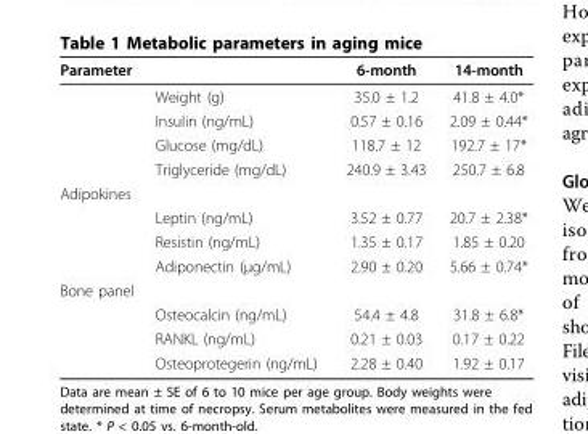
<table><thead><tr><td>Parameter</td><td></td><td>6-month</td><td>14-month</td></tr></thead><tbody><tr><td></td><td>Weight (g)</td><td>35.0 ± 1.2</td><td>41.8 ± 4.0*</td></tr><tr><td></td><td>Insulin (ng/mL)</td><td>0.57 ± 0.16</td><td>2.09 ± 0.44*</td></tr><tr><td></td><td>Glucose (mg/dL)</td><td>118.7 ± 12</td><td>192.7 ± 17*</td></tr><tr><td></td><td>Triglyceride (mg/dL)</td><td>240.9 ± 3.43</td><td>250.7 ± 6.8</td></tr><tr><td colspan="4">Adipokines</td></tr><tr><td></td><td>Leptin (ng/mL)</td><td>3.52 ± 0.77</td><td>20.7 ± 2.38*</td></tr><tr><td></td><td>Resistin (ng/mL)</td><td>1.35 ± 0.17</td><td>1.85 ± 0.20</td></tr><tr><td></td><td>Adiponectin (μg/mL)</td><td>2.90 ± 0.20</td><td>5.66 ± 0.74*</td></tr><tr><td colspan="4">Bone panel</td></tr><tr><td></td><td>Osteocalcin (ng/mL)</td><td>54.4 ± 4.8</td><td>31.8 ± 6.8*</td></tr><tr><td></td><td>RANKL (ng/mL)</td><td>0.21 ± 0.03</td><td>0.17 ± 0.22</td></tr><tr><td></td><td>Osteoprotegerin (ng/mL)</td><td>2.28 ± 0.40</td><td>1.92 ± 0.17</td></tr></tbody></table>